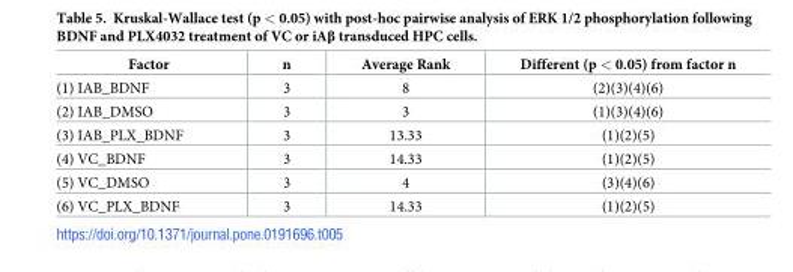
<table><thead><tr><td>Factor</td><td>n</td><td>Average Rank</td><td>Different (p &lt; 0.05) from factor n</td></tr></thead><tbody><tr><td>(1) IAB_BDNF</td><td>3</td><td>8</td><td>(2)(3)(4)(6)</td></tr><tr><td>(2) IAB_DMSO</td><td>3</td><td>3</td><td>(1)(3)(4)(6)</td></tr><tr><td>(3) IAB_PLX_BDNF</td><td>3</td><td>13.33</td><td>(1)(2)(5)</td></tr><tr><td>(4) VC_BDNF</td><td>3</td><td>14.33</td><td>(1)(2)(5)</td></tr><tr><td>(5) VC_DMSO</td><td>3</td><td>4</td><td>(3)(4)(6)</td></tr><tr><td>(6) VC_PLX_BDNF</td><td>3</td><td>14.33</td><td>(1)(2)(5)</td></tr></tbody></table>